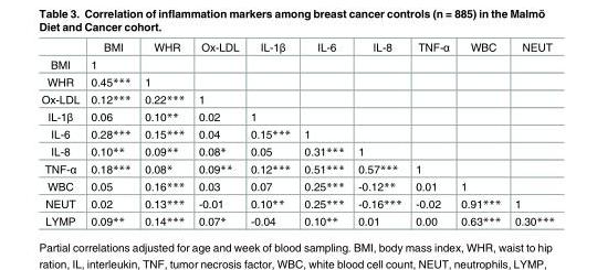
<table><thead><tr><td></td><td>BMI</td><td>WHR</td><td>Ox-LDL</td><td>IL-1β</td><td>IL-6</td><td>IL-8</td><td>TNF-α</td><td>WBC</td><td>NEUT</td></tr></thead><tbody><tr><td>BMI</td><td>1</td><td></td><td></td><td></td><td></td><td></td><td></td><td></td><td></td></tr><tr><td>WHR</td><td>0.45***</td><td>1</td><td></td><td></td><td></td><td></td><td></td><td></td><td></td></tr><tr><td>Ox-LDL</td><td>0.12***</td><td>0.22***</td><td>1</td><td></td><td></td><td></td><td></td><td></td><td></td></tr><tr><td>IL-1β</td><td>0.06</td><td>0.10**</td><td>0.02</td><td>1</td><td></td><td></td><td></td><td></td><td></td></tr><tr><td>IL-6</td><td>0.28***</td><td>0.15***</td><td>0.04</td><td>0.15***</td><td>1</td><td></td><td></td><td></td><td></td></tr><tr><td>IL-8</td><td>0.10**</td><td>0.09**</td><td>0.08*</td><td>0.05</td><td>0.31***</td><td>1</td><td></td><td></td><td></td></tr><tr><td>TNF-α</td><td>0.18***</td><td>0.08*</td><td>0.09**</td><td>0.12***</td><td>0.51***</td><td>0.57***</td><td>1</td><td></td><td></td></tr><tr><td>WBC</td><td>0.05</td><td>0.16***</td><td>0.03</td><td>0.07</td><td>0.25***</td><td>-0.12**</td><td>0.01</td><td>1</td><td></td></tr><tr><td>NEUT</td><td>0.02</td><td>0.13***</td><td>-0.01</td><td>0.10**</td><td>0.25***</td><td>-0.16***</td><td>-0.02</td><td>0.91***</td><td>1</td></tr><tr><td>LYMP</td><td>0.09**</td><td>0.14***</td><td>0.07*</td><td>-0.04</td><td>0.10**</td><td>0.01</td><td>0.00</td><td>0.63***</td><td>0.30***</td></tr></tbody></table>